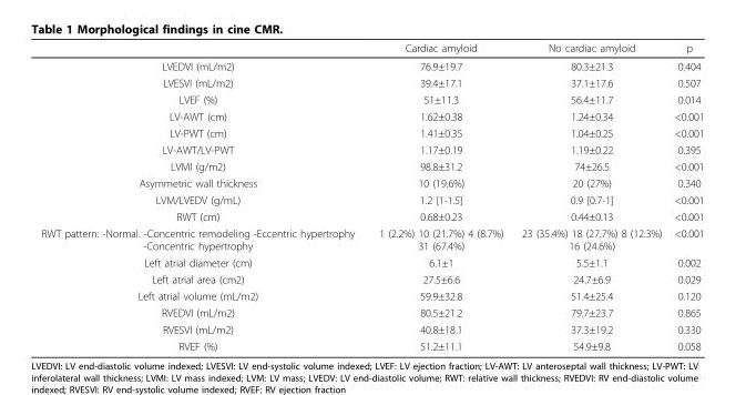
<table><thead><tr><td></td><td>Cardiac amyloid</td><td>No cardiac amyloid</td><td>p</td></tr></thead><tbody><tr><td>LVEDVI (mL/m2)</td><td>76.9±19.7</td><td>80.3±21.3</td><td>0.404</td></tr><tr><td>LVESVI (mL/m2)</td><td>39.4±17.1</td><td>37.1±17.6</td><td>0.507</td></tr><tr><td>LVEF (%)</td><td>51±11.3</td><td>56.4±11.7</td><td>0.014</td></tr><tr><td>LV-AWT (cm)</td><td>1.62±0.38</td><td>1.24±0.34</td><td>&lt;0.001</td></tr><tr><td>LV-PWT (cm)</td><td>1.41±0.35</td><td>1.04±0.25</td><td>&lt;0.001</td></tr><tr><td>LV-AWT/LV-PWT</td><td>1.17±0.19</td><td>1.19±0.22</td><td>0.395</td></tr><tr><td>LVMI (g/m2)</td><td>98.8±31.2</td><td>74±26.5</td><td>&lt;0.001</td></tr><tr><td>Asymmetric wall thickness</td><td>10 (19.6%)</td><td>20 (27%)</td><td>0.340</td></tr><tr><td>LVM/LVEDV (g/mL)</td><td>1.2 [1-1.5]</td><td>0.9 [0.7-1]</td><td>&lt;0.001</td></tr><tr><td>RWT (cm)</td><td>0.68±0.23</td><td>0.44±0.13</td><td>&lt;0.001</td></tr><tr><td>RWT pattern: -Normal. -Concentric remodeling -Eccentric hypertrophy -Concentric hypertrophy</td><td>1 (2.2%) 10 (21.7%) 4 (8.7%) 31 (67.4%)</td><td>23 (35.4%) 18 (27.7%) 8 (12.3%) 16 (24.6%)</td><td>&lt;0.001</td></tr><tr><td>Left atrial diameter (cm)</td><td>6.1±1</td><td>5.5±1.1</td><td>0.002</td></tr><tr><td>Left atrial area (cm2)</td><td>27.5±6.6</td><td>24.7±6.9</td><td>0.029</td></tr><tr><td>Left atrial volume (mL/m2)</td><td>59.9±32.8</td><td>51.4±25.4</td><td>0.120</td></tr><tr><td>RVEDVI (mL/m2)</td><td>80.5±21.2</td><td>79.7±23.7</td><td>0.865</td></tr><tr><td>RVESVI (mL/m2)</td><td>40.8±18.1</td><td>37.3±19.2</td><td>0.330</td></tr><tr><td>RVEF (%)</td><td>51.2±11.1</td><td>54.9±9.8</td><td>0.058</td></tr></tbody></table>